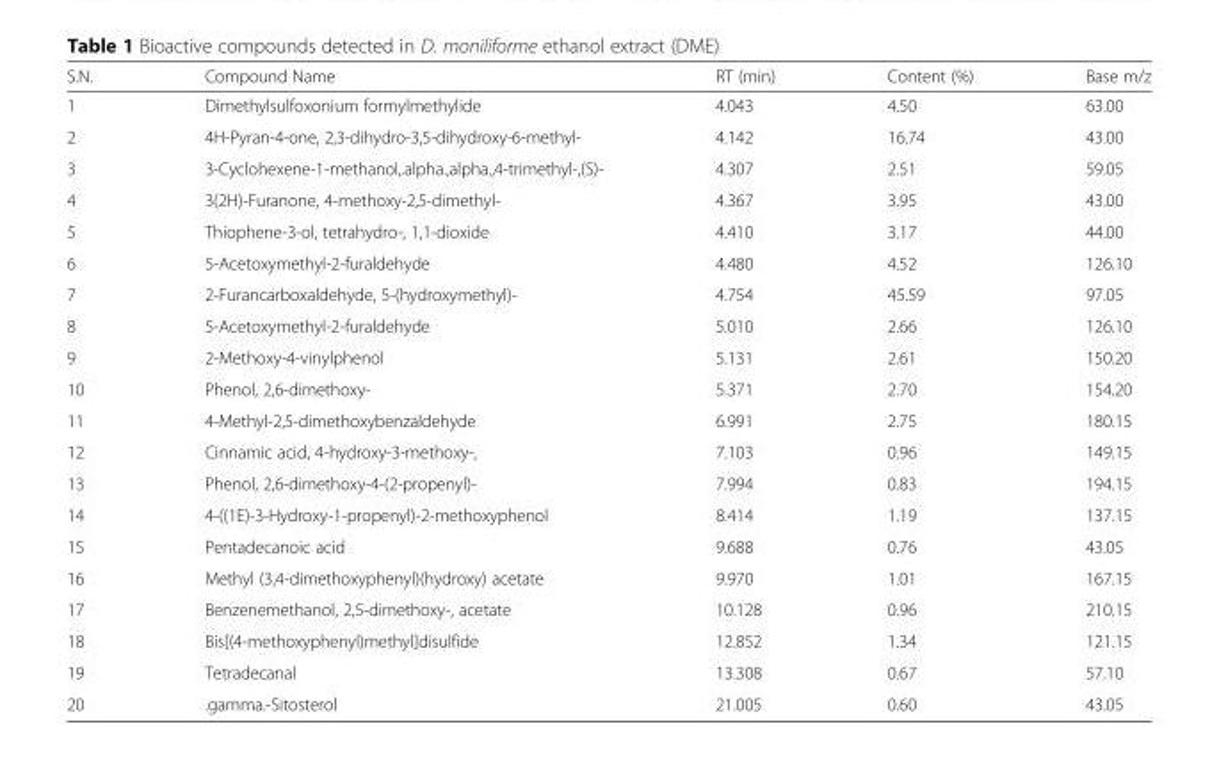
<table><thead><tr><td>S.N.</td><td>Compound Name</td><td>RT (min)</td><td>Content (%)</td><td>Base m/z</td></tr></thead><tbody><tr><td>1</td><td>Dimethylsulfoxonium formylmethylide</td><td>4.043</td><td>4.50</td><td>63.00</td></tr><tr><td>2</td><td>4H-Pyran-4-one, 2,3-dihydro-3,5-dihydroxy-6-methyl-</td><td>4.142</td><td>16.74</td><td>43.00</td></tr><tr><td>3</td><td>3-Cyclohexene-1-methanol,.alpha.,alpha.,4-trimethyl-,(S)-</td><td>4.307</td><td>2.51</td><td>59.05</td></tr><tr><td>4</td><td>3(2H)-Furanone, 4-methoxy-2,5-dimethyl-</td><td>4.367</td><td>3.95</td><td>43.00</td></tr><tr><td>5</td><td>Thiophene-3-ol, tetrahydro-, 1,1-dioxide</td><td>4.410</td><td>3.17</td><td>44.00</td></tr><tr><td>6</td><td>5-Acetoxymethyl-2-furaldehyde</td><td>4.480</td><td>4.52</td><td>126.10</td></tr><tr><td>7</td><td>2-Furancarboxaldehyde, 5-(hydroxymethyl)-</td><td>4.754</td><td>45.59</td><td>97.05</td></tr><tr><td>8</td><td>5-Acetoxymethyl-2-furaldehyde</td><td>5.010</td><td>2.66</td><td>126.10</td></tr><tr><td>9</td><td>2-Methoxy-4-vinylphenol</td><td>5.131</td><td>2.61</td><td>150.20</td></tr><tr><td>10</td><td>Phenol, 2,6-dimethoxy-</td><td>5.371</td><td>2.70</td><td>154.20</td></tr><tr><td>11</td><td>4-Methyl-2,5-dimethoxybenzaldehyde</td><td>6.991</td><td>2.75</td><td>180.15</td></tr><tr><td>12</td><td>Cinnamic acid, 4-hydroxy-3-methoxy-,</td><td>7.103</td><td>0.96</td><td>149.15</td></tr><tr><td>13</td><td>Phenol, 2,6-dimethoxy-4-(2-propenyl)-</td><td>7.994</td><td>0.83</td><td>194.15</td></tr><tr><td>14</td><td>4-((1E)-3-Hydroxy-1-propenyl)-2-methoxyphenol</td><td>8.414</td><td>1.19</td><td>137.15</td></tr><tr><td>15</td><td>Pentadecanoic acid</td><td>9.688</td><td>0.76</td><td>43.05</td></tr><tr><td>16</td><td>Methyl (3,4-dimethoxyphenyl)(hydroxy) acetate</td><td>9.970</td><td>1.01</td><td>167.15</td></tr><tr><td>17</td><td>Benzenemethanol, 2,5-dimethoxy-, acetate</td><td>10.128</td><td>0.96</td><td>210.15</td></tr><tr><td>18</td><td>Bis[(4-methoxyphenyl)methyl]disulfide</td><td>12.852</td><td>1.34</td><td>121.15</td></tr><tr><td>19</td><td>Tetradecanal</td><td>13.308</td><td>0.67</td><td>57.10</td></tr><tr><td>20</td><td>.gamma.-Sitosterol</td><td>21.005</td><td>0.60</td><td>43.05</td></tr></tbody></table>